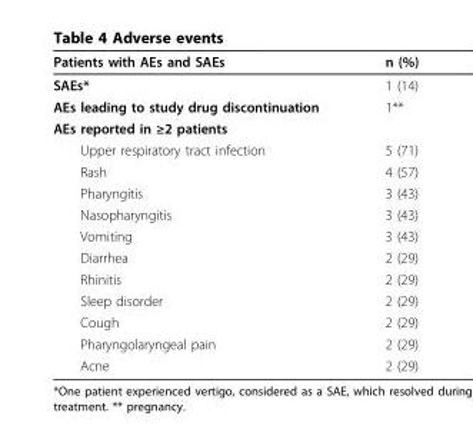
<table><thead><tr><td>Patients with AEs and SAEs</td><td>n (%)</td></tr></thead><tbody><tr><td>SAEs*</td><td>1 (14)</td></tr><tr><td>AEs leading to study drug discontinuation</td><td>1**</td></tr><tr><td colspan="2">AEs reported in ≥2 patients</td></tr><tr><td>Upper respiratory tract infection</td><td>5 (71)</td></tr><tr><td>Rash</td><td>4 (57)</td></tr><tr><td>Pharyngitis</td><td>3 (43)</td></tr><tr><td>Nasopharyngitis</td><td>3 (43)</td></tr><tr><td>Vomiting</td><td>3 (43)</td></tr><tr><td>Diarrhea</td><td>2 (29)</td></tr><tr><td>Rhinitis</td><td>2 (29)</td></tr><tr><td>Sleep disorder</td><td>2 (29)</td></tr><tr><td>Cough</td><td>2 (29)</td></tr><tr><td>Pharyngolaryngeal pain</td><td>2 (29)</td></tr><tr><td>Acne</td><td>2 (29)</td></tr></tbody></table>